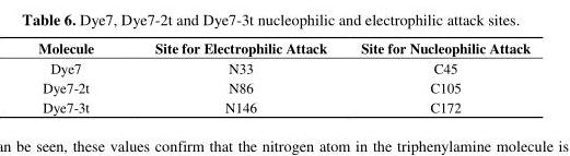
<table><thead><tr><td>Molecule</td><td>Site for Electrophilic Attack</td><td>Site for Nucleophilic Attack</td></tr></thead><tbody><tr><td>Dye7</td><td>N33</td><td>C45</td></tr><tr><td>Dye7-2t</td><td>N86</td><td>C105</td></tr><tr><td>Dye7-3t</td><td>N146</td><td>C172</td></tr></tbody></table>